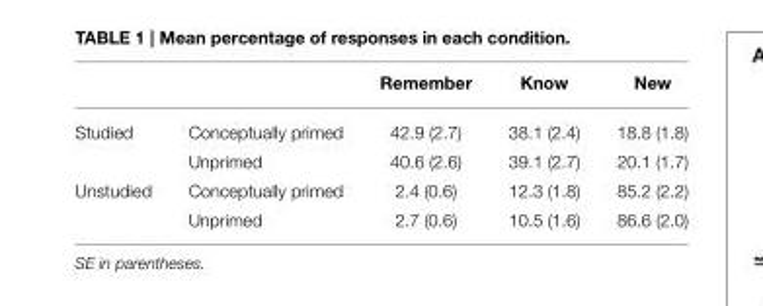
<table><thead><tr><td></td><td></td><td>Remember</td><td>Know</td><td>New</td></tr></thead><tbody><tr><td rowspan="2">Studied</td><td>Conceptually primed</td><td>42.9 (2.7)</td><td>38.1 (2.4)</td><td>18.8 (1.8)</td></tr><tr><td>Unprimed</td><td>40.6 (2.6)</td><td>39.1 (2.7)</td><td>20.1 (1.7)</td></tr><tr><td rowspan="2">Unstudied</td><td>Conceptually primed</td><td>2.4 (0.6)</td><td>12.3 (1.8)</td><td>85.2 (2.2)</td></tr><tr><td>Unprimed</td><td>2.7 (0.6)</td><td>10.5 (1.6)</td><td>86.6 (2.0)</td></tr></tbody></table>